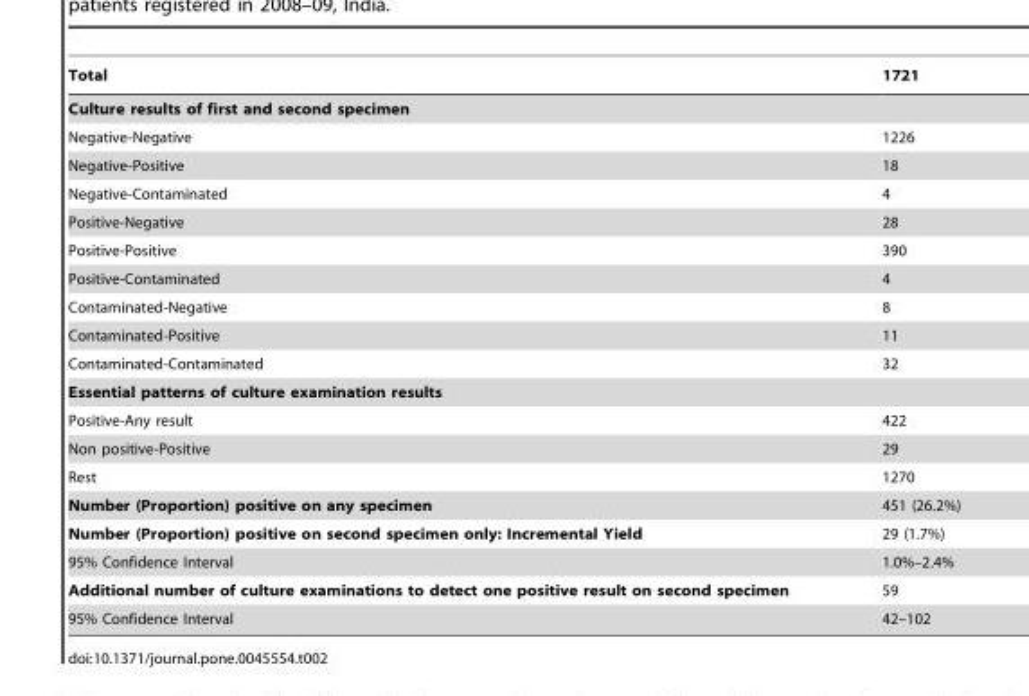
<table><thead><tr><td>Total</td><td>1721</td></tr></thead><tbody><tr><td colspan="2">Culture results of first and second specimen</td></tr><tr><td>Negative-Negative</td><td>1226</td></tr><tr><td>Negative-Positive</td><td>18</td></tr><tr><td>Negative-Contaminated</td><td>4</td></tr><tr><td>Positive-Negative</td><td>28</td></tr><tr><td>Positive-Positive</td><td>390</td></tr><tr><td>Positive-Contaminated</td><td>4</td></tr><tr><td>Contaminated-Negative</td><td>8</td></tr><tr><td>Contaminated-Positive</td><td>11</td></tr><tr><td>Contaminated-Contaminated</td><td>32</td></tr><tr><td colspan="2">Essential patterns of culture examination results</td></tr><tr><td>Positive-Any result</td><td>422</td></tr><tr><td>Non positive-Positive</td><td>29</td></tr><tr><td>Rest</td><td>1270</td></tr><tr><td>Number (Proportion) positive on any specimen</td><td>451 (26.2%)</td></tr><tr><td>Number (Proportion) positive on second specimen only: Incremental Yield</td><td>29 (1.7%)</td></tr><tr><td>95% Confidence Interval</td><td>1.0%–2.4%</td></tr><tr><td>Additional number of culture examinations to detect one positive result on second specimen</td><td>59</td></tr><tr><td>95% Confidence Interval</td><td>42–102</td></tr></tbody></table>